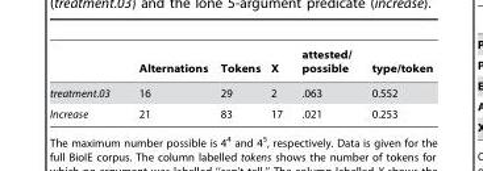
<table><thead><tr><td></td><td>Alternations</td><td>Tokens</td><td>X</td><td>attested/ possible</td><td>type/token</td></tr></thead><tbody><tr><td>treatment.03</td><td>16</td><td>29</td><td>2</td><td>.063</td><td>0.552</td></tr><tr><td>Increase</td><td>21</td><td>83</td><td>17</td><td>.021</td><td>0.253</td></tr></tbody></table>